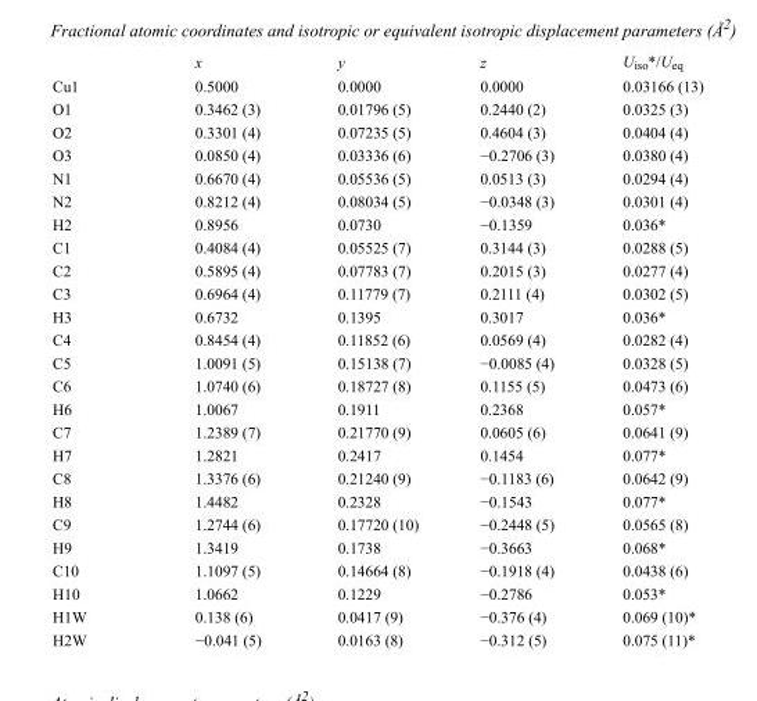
<table><thead><tr><td></td><td>x</td><td>y</td><td>z</td><td>U<sub>iso</sub>*/U<sub>eq</sub></td></tr></thead><tbody><tr><td>Cu1</td><td>0.5000</td><td>0.0000</td><td>0.0000</td><td>0.03166 (13)</td></tr><tr><td>O1</td><td>0.3462 (3)</td><td>0.01796 (5)</td><td>0.2440 (2)</td><td>0.0325 (3)</td></tr><tr><td>O2</td><td>0.3301 (4)</td><td>0.07235 (5)</td><td>0.4604 (3)</td><td>0.0404 (4)</td></tr><tr><td>O3</td><td>0.0850 (4)</td><td>0.03336 (6)</td><td>−0.2706 (3)</td><td>0.0380 (4)</td></tr><tr><td>N1</td><td>0.6670 (4)</td><td>0.05536 (5)</td><td>0.0513 (3)</td><td>0.0294 (4)</td></tr><tr><td>N2</td><td>0.8212 (4)</td><td>0.08034 (5)</td><td>−0.0348 (3)</td><td>0.0301 (4)</td></tr><tr><td>H2</td><td>0.8956</td><td>0.0730</td><td>−0.1359</td><td>0.036*</td></tr><tr><td>C1</td><td>0.4084 (4)</td><td>0.05525 (7)</td><td>0.3144 (3)</td><td>0.0288 (5)</td></tr><tr><td>C2</td><td>0.5895 (4)</td><td>0.07783 (7)</td><td>0.2015 (3)</td><td>0.0277 (4)</td></tr><tr><td>C3</td><td>0.6964 (4)</td><td>0.11779 (7)</td><td>0.2111 (4)</td><td>0.0302 (5)</td></tr><tr><td>H3</td><td>0.6732</td><td>0.1395</td><td>0.3017</td><td>0.036*</td></tr><tr><td>C4</td><td>0.8454 (4)</td><td>0.11852 (6)</td><td>0.0569 (4)</td><td>0.0282 (4)</td></tr><tr><td>C5</td><td>1.0091 (5)</td><td>0.15138 (7)</td><td>−0.0085 (4)</td><td>0.0328 (5)</td></tr><tr><td>C6</td><td>1.0740 (6)</td><td>0.18727 (8)</td><td>0.1155 (5)</td><td>0.0473 (6)</td></tr><tr><td>H6</td><td>1.0067</td><td>0.1911</td><td>0.2368</td><td>0.057*</td></tr><tr><td>C7</td><td>1.2389 (7)</td><td>0.21770 (9)</td><td>0.0605 (6)</td><td>0.0641 (9)</td></tr><tr><td>H7</td><td>1.2821</td><td>0.2417</td><td>0.1454</td><td>0.077*</td></tr><tr><td>C8</td><td>1.3376 (6)</td><td>0.21240 (9)</td><td>−0.1183 (6)</td><td>0.0642 (9)</td></tr><tr><td>H8</td><td>1.4482</td><td>0.2328</td><td>−0.1543</td><td>0.077*</td></tr><tr><td>C9</td><td>1.2744 (6)</td><td>0.17720 (10)</td><td>−0.2448 (5)</td><td>0.0565 (8)</td></tr><tr><td>H9</td><td>1.3419</td><td>0.1738</td><td>−0.3663</td><td>0.068*</td></tr><tr><td>C10</td><td>1.1097 (5)</td><td>0.14664 (8)</td><td>−0.1918 (4)</td><td>0.0438 (6)</td></tr><tr><td>H10</td><td>1.0662</td><td>0.1229</td><td>−0.2786</td><td>0.053*</td></tr><tr><td>H1W</td><td>0.138 (6)</td><td>0.0417 (9)</td><td>−0.376 (4)</td><td>0.069 (10)*</td></tr><tr><td>H2W</td><td>−0.041 (5)</td><td>0.0163 (8)</td><td>−0.312 (5)</td><td>0.075 (11)*</td></tr></tbody></table>